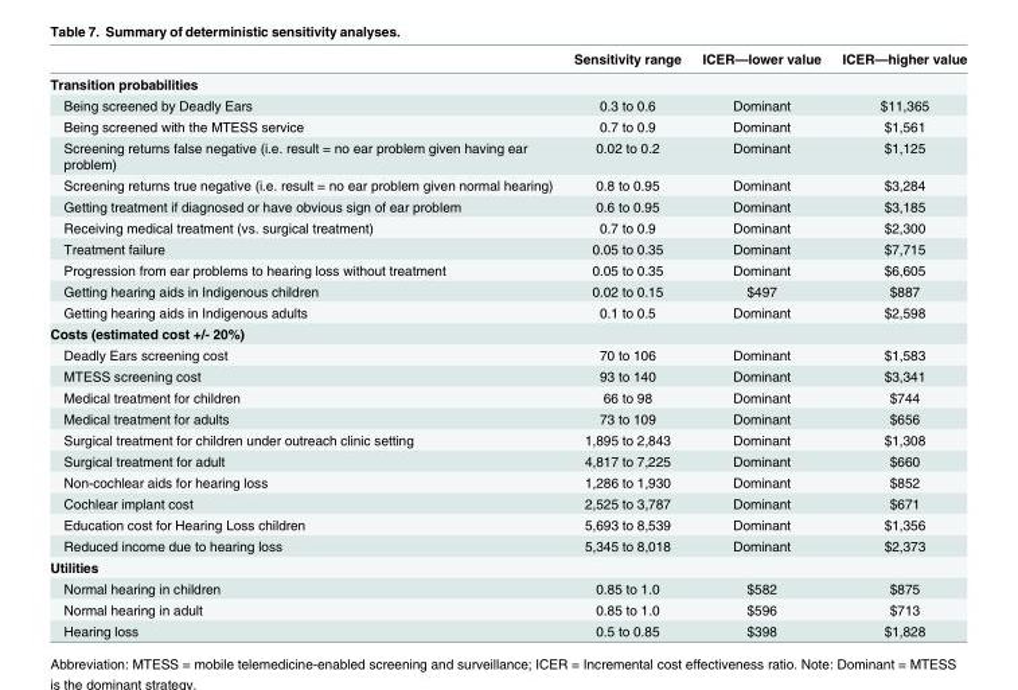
<table><thead><tr><td></td><td>Sensitivity range</td><td>ICER—lower value</td><td>ICER—higher value</td></tr></thead><tbody><tr><td colspan="4">Transition probabilities</td></tr><tr><td>Being screened by Deadly Ears</td><td>0.3 to 0.6</td><td>Dominant</td><td>$11,365</td></tr><tr><td>Being screened with the MTESS service</td><td>0.7 to 0.9</td><td>Dominant</td><td>$1,561</td></tr><tr><td>Screening returns false negative (i.e. result = no ear problem given having ear problem)</td><td>0.02 to 0.2</td><td>Dominant</td><td>$1,125</td></tr><tr><td>Screening returns true negative (i.e. result = no ear problem given normal hearing)</td><td>0.8 to 0.95</td><td>Dominant</td><td>$3,284</td></tr><tr><td>Getting treatment if diagnosed or have obvious sign of ear problem</td><td>0.6 to 0.95</td><td>Dominant</td><td>$3,185</td></tr><tr><td>Receiving medical treatment (vs. surgical treatment)</td><td>0.7 to 0.9</td><td>Dominant</td><td>$2,300</td></tr><tr><td>Treatment failure</td><td>0.05 to 0.35</td><td>Dominant</td><td>$7,715</td></tr><tr><td>Progression from ear problems to hearing loss without treatment</td><td>0.05 to 0.35</td><td>Dominant</td><td>$6,605</td></tr><tr><td>Getting hearing aids in Indigenous children</td><td>0.02 to 0.15</td><td>$497</td><td>$887</td></tr><tr><td>Getting hearing aids in Indigenous adults</td><td>0.1 to 0.5</td><td>Dominant</td><td>$2,598</td></tr><tr><td colspan="4">Costs (estimated cost +/- 20%)</td></tr><tr><td>Deadly Ears screening cost</td><td>70 to 106</td><td>Dominant</td><td>$1,583</td></tr><tr><td>MTESS screening cost</td><td>93 to 140</td><td>Dominant</td><td>$3,341</td></tr><tr><td>Medical treatment for children</td><td>66 to 98</td><td>Dominant</td><td>$744</td></tr><tr><td>Medical treatment for adults</td><td>73 to 109</td><td>Dominant</td><td>$656</td></tr><tr><td>Surgical treatment for children under outreach clinic setting</td><td>1,895 to 2,843</td><td>Dominant</td><td>$1,308</td></tr><tr><td>Surgical treatment for adult</td><td>4,817 to 7,225</td><td>Dominant</td><td>$660</td></tr><tr><td>Non-cochlear aids for hearing loss</td><td>1,286 to 1,930</td><td>Dominant</td><td>$852</td></tr><tr><td>Cochlear implant cost</td><td>2,525 to 3,787</td><td>Dominant</td><td>$671</td></tr><tr><td>Education cost for Hearing Loss children</td><td>5,693 to 8,539</td><td>Dominant</td><td>$1,356</td></tr><tr><td>Reduced income due to hearing loss</td><td>5,345 to 8,018</td><td>Dominant</td><td>$2,373</td></tr><tr><td colspan="4">Utilities</td></tr><tr><td>Normal hearing in children</td><td>0.85 to 1.0</td><td>$582</td><td>$875</td></tr><tr><td>Normal hearing in adult</td><td>0.85 to 1.0</td><td>$596</td><td>$713</td></tr><tr><td>Hearing loss</td><td>0.5 to 0.85</td><td>$398</td><td>$1,828</td></tr></tbody></table>